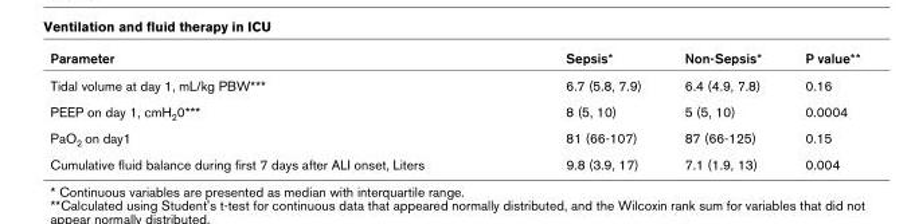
<table><thead><tr><td>Parameter</td><td>Sepsis*</td><td>Non-Sepsis*</td><td>P value**</td></tr></thead><tbody><tr><td>Tidal volume at day 1, mL/kg PBW***</td><td>6.7 (5.8, 7.9)</td><td>6.4 (4.9, 7.8)</td><td>0.16</td></tr><tr><td>PEEP on day 1, cmH<sub>2</sub>0***</td><td>8 (5, 10)</td><td>5 (5, 10)</td><td>0.0004</td></tr><tr><td>PaO<sub>2</sub> on day1</td><td>81 (66-107)</td><td>87 (66-125)</td><td>0.15</td></tr><tr><td>Cumulative fluid balance during first 7 days after ALI onset, Liters</td><td>9.8 (3.9, 17)</td><td>7.1 (1.9, 13)</td><td>0.004</td></tr></tbody></table>